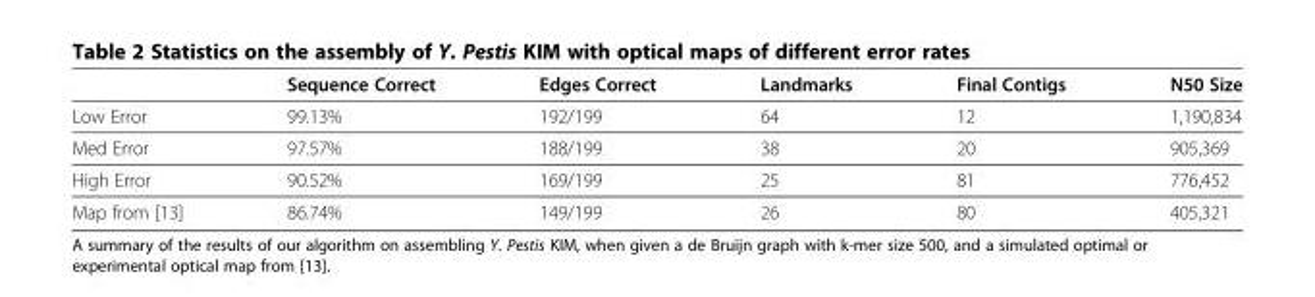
<table><thead><tr><td></td><td>Sequence Correct</td><td>Edges Correct</td><td>Landmarks</td><td>Final Contigs</td><td>N50 Size</td></tr></thead><tbody><tr><td>Low Error</td><td>99.13%</td><td>192/199</td><td>64</td><td>12</td><td>1,190,834</td></tr><tr><td>Med Error</td><td>97.57%</td><td>188/199</td><td>38</td><td>20</td><td>905,369</td></tr><tr><td>High Error</td><td>90.52%</td><td>169/199</td><td>25</td><td>81</td><td>776,452</td></tr><tr><td>Map from [13]</td><td>86.74%</td><td>149/199</td><td>26</td><td>80</td><td>405,321</td></tr></tbody></table>